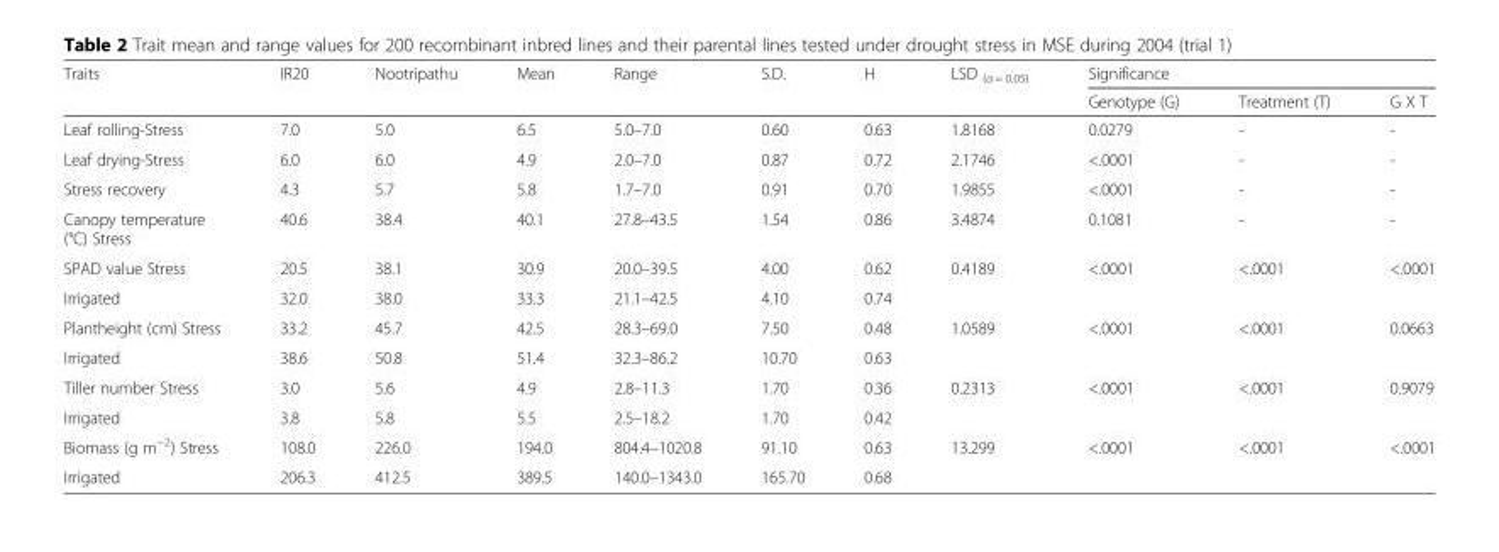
<table><thead><tr><td rowspan="2">Traits</td><td rowspan="2">IR20</td><td rowspan="2">Nootripathu</td><td rowspan="2">Mean</td><td rowspan="2">Range</td><td rowspan="2">S.D.</td><td rowspan="2">H</td><td rowspan="2">LSD <sub>(α = 0.05)</sub></td><td colspan="3">Significance</td></tr><tr><td>Genotype (G)</td><td>Treatment (T)</td><td>G X T</td></tr></thead><tbody><tr><td>Leaf rolling-Stress</td><td>7.0</td><td>5.0</td><td>6.5</td><td>5.0–7.0</td><td>0.60</td><td>0.63</td><td>1.8168</td><td>0.0279</td><td>-</td><td>-</td></tr><tr><td>Leaf drying-Stress</td><td>6.0</td><td>6.0</td><td>4.9</td><td>2.0–7.0</td><td>0.87</td><td>0.72</td><td>2.1746</td><td>&lt;.0001</td><td>-</td><td>-</td></tr><tr><td>Stress recovery</td><td>4.3</td><td>5.7</td><td>5.8</td><td>1.7–7.0</td><td>0.91</td><td>0.70</td><td>1.9855</td><td>&lt;.0001</td><td>-</td><td>-</td></tr><tr><td>Canopy temperature (°C) Stress</td><td>40.6</td><td>38.4</td><td>40.1</td><td>27.8–43.5</td><td>1.54</td><td>0.86</td><td>3.4874</td><td>0.1081</td><td>-</td><td>-</td></tr><tr><td>SPAD value Stress</td><td>20.5</td><td>38.1</td><td>30.9</td><td>20.0–39.5</td><td>4.00</td><td>0.62</td><td rowspan="2">0.4189</td><td rowspan="2">&lt;.0001</td><td rowspan="2">&lt;.0001</td><td rowspan="2">&lt;.0001</td></tr><tr><td>Irrigated</td><td>32.0</td><td>38.0</td><td>33.3</td><td>21.1–42.5</td><td>4.10</td><td>0.74</td></tr><tr><td>Plantheight (cm) Stress</td><td>33.2</td><td>45.7</td><td>42.5</td><td>28.3–69.0</td><td>7.50</td><td>0.48</td><td rowspan="2">1.0589</td><td rowspan="2">&lt;.0001</td><td rowspan="2">&lt;.0001</td><td rowspan="2">0.0663</td></tr><tr><td>Irrigated</td><td>38.6</td><td>50.8</td><td>51.4</td><td>32.3–86.2</td><td>10.70</td><td>0.63</td></tr><tr><td>Tiller number Stress</td><td>3.0</td><td>5.6</td><td>4.9</td><td>2.8–11.3</td><td>1.70</td><td>0.36</td><td rowspan="2">0.2313</td><td rowspan="2">&lt;.0001</td><td rowspan="2">&lt;.0001</td><td rowspan="2">0.9079</td></tr><tr><td>Irrigated</td><td>3.8</td><td>5.8</td><td>5.5</td><td>2.5–18.2</td><td>1.70</td><td>0.42</td></tr><tr><td>Biomass (g m<sup>−2</sup>) Stress</td><td>108.0</td><td>226.0</td><td>194.0</td><td>804.4–1020.8</td><td>91.10</td><td>0.63</td><td rowspan="2">13.299</td><td rowspan="2">&lt;.0001</td><td rowspan="2">&lt;.0001</td><td rowspan="2">&lt;.0001</td></tr><tr><td>Irrigated</td><td>206.3</td><td>412.5</td><td>389.5</td><td>140.0–1343.0</td><td>165.70</td><td>0.68</td></tr></tbody></table>